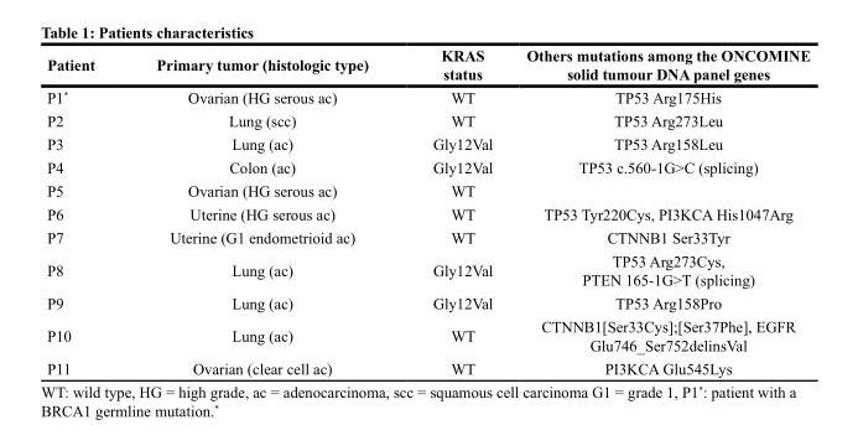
<table><thead><tr><td>Patient</td><td>Primary tumor (histologic type)</td><td>KRAS status</td><td>Others mutations among the ONCOMINE solid tumour DNA panel genes</td></tr></thead><tbody><tr><td>P1*</td><td>Ovarian (HG serous ac)</td><td>WT</td><td>TP53 Arg175His</td></tr><tr><td>P2</td><td>Lung (scc)</td><td>WT</td><td>TP53 Arg273Leu</td></tr><tr><td>P3</td><td>Lung (ac)</td><td>Gly12Val</td><td>TP53 Arg158Leu</td></tr><tr><td>P4</td><td>Colon (ac)</td><td>Gly12Val</td><td>TP53 c.560-1G&gt;C (splicing)</td></tr><tr><td>P5</td><td>Ovarian (HG serous ac)</td><td>WT</td><td></td></tr><tr><td>P6</td><td>Uterine (HG serous ac)</td><td>WT</td><td>TP53 Tyr220Cys, PI3KCA His1047Arg</td></tr><tr><td>P7</td><td>Uterine (G1 endometrioid ac)</td><td>WT</td><td>CTNNB1 Ser33Tyr</td></tr><tr><td>P8</td><td>Lung (ac)</td><td>Gly12Val</td><td>TP53 Arg273Cys, PTEN 165-1G&gt;T (splicing)</td></tr><tr><td>P9</td><td>Lung (ac)</td><td>Gly12Val</td><td>TP53 Arg158Pro</td></tr><tr><td>P10</td><td>Lung (ac)</td><td>WT</td><td>CTNNB1[Ser33Cys];[Ser37Phe], EGFR Glu746_Ser752delinsVal</td></tr><tr><td>P11</td><td>Ovarian (clear cell ac)</td><td>WT</td><td>PI3KCA Glu545Lys</td></tr></tbody></table>